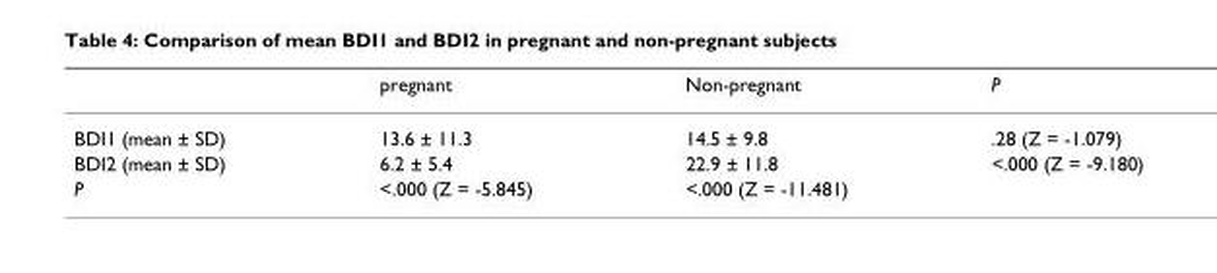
<table><thead><tr><td></td><td>pregnant</td><td>Non-pregnant</td><td>P</td></tr></thead><tbody><tr><td>BDI1 (mean ± SD)</td><td>13.6 ± 11.3</td><td>14.5 ± 9.8</td><td>.28 (Z = -1.079)</td></tr><tr><td>BDI2 (mean ± SD)</td><td>6.2 ± 5.4</td><td>22.9 ± 11.8</td><td>&lt;.000 (Z = -9.180)</td></tr><tr><td>P</td><td>&lt;.000 (Z = -5.845)</td><td>&lt;.000 (Z = -11.481)</td><td></td></tr></tbody></table>